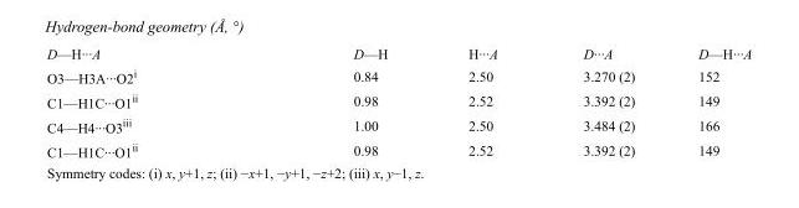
<table><tbody><tr><td>D—H···A</td><td>D—H</td><td>H···A</td><td>D···A</td><td>D—H···A</td></tr><tr><td>O3—H3A···O2<sup>i</sup></td><td>0.84</td><td>2.50</td><td>3.270 (2)</td><td>152</td></tr><tr><td>C1—H1C···O1<sup>ii</sup></td><td>0.98</td><td>2.52</td><td>3.392 (2)</td><td>149</td></tr><tr><td>C4—H4···O3<sup>iii</sup></td><td>1.00</td><td>2.50</td><td>3.484 (2)</td><td>166</td></tr><tr><td>C1—H1C···O1<sup>ii</sup></td><td>0.98</td><td>2.52</td><td>3.392 (2)</td><td>149</td></tr></tbody></table>